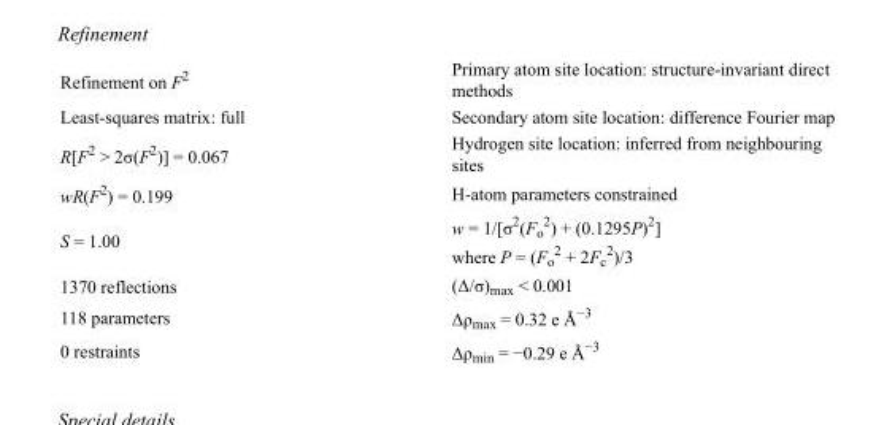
<table><tbody><tr><td>Refinement on F<sup>2</sup></td><td>Primary atom site location: structure-invariant direct methods</td></tr><tr><td>Least-squares matrix: full</td><td>Secondary atom site location: difference Fourier map</td></tr><tr><td>R[F<sup>2</sup> &gt; 2σ(F<sup>2</sup>)] = 0.067</td><td>Hydrogen site location: inferred from neighbouring sites</td></tr><tr><td>wR(F<sup>2</sup>) = 0.199</td><td>H-atom parameters constrained</td></tr><tr><td>S = 1.00</td><td>w = 1/[σ<sup>2</sup>(F<sub>o</sub> <sup>2</sup>) + (0.1295P)<sup>2</sup>] where P = (F<sub>o</sub> <sup>2</sup> + 2F<sub>c</sub> <sup>2</sup>)/3</td></tr><tr><td>1370 reflections</td><td>(Δ/σ)<sub>max</sub> &lt; 0.001</td></tr><tr><td>118 parameters</td><td>Δρ<sub>max</sub> = 0.32 e Å<sup>−3</sup></td></tr><tr><td>0 restraints</td><td>Δρ<sub>min</sub> = −0.29 e Å<sup>−3</sup></td></tr></tbody></table>